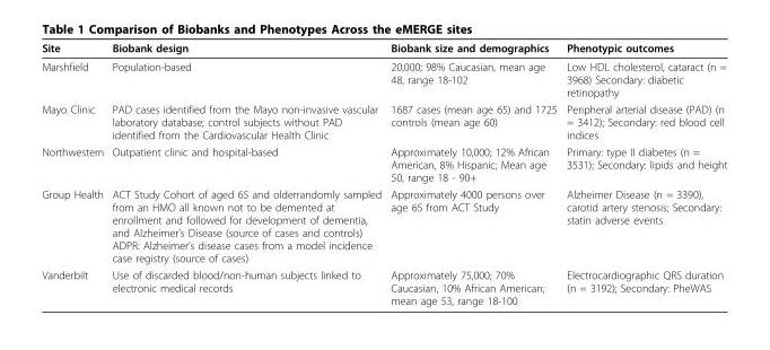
<table><tbody><tr><td>Site</td><td>Biobank design</td><td>Biobank size and demographics</td><td>Phenotypic outcomes</td></tr><tr><td>Marshfield</td><td>Population-based</td><td>20,000; 98% Caucasian, mean age 48, range 18-102</td><td>Low HDL cholesterol, cataract (n = 3968) Secondary: diabetic retinopathy</td></tr><tr><td>Mayo Clinic</td><td>PAD cases identified from the Mayo non-invasive vascular laboratory database; control subjects without PAD identified from the Cardiovascular Health Clinic</td><td>1687 cases (mean age 65) and 1725 controls (mean age 60)</td><td>Peripheral arterial disease (PAD) (n = 3412); Secondary: red blood cell indices</td></tr><tr><td>Northwestern</td><td>Outpatient clinic and hospital-based</td><td>Approximately 10,000; 12% African American, 8% Hispanic; Mean age 50, range 18 - 90+</td><td>Primary: type II diabetes (n = 3531); Secondary: lipids and height</td></tr><tr><td>Group Health</td><td>ACT Study Cohort of aged 65 and olderrandomly sampled from an HMO all known not to be demented at enrollment and followed for development of dementia, and Alzheimer’s Disease (source of cases and controls) ADPR: Alzheimer’s disease cases from a model incidence case registry (source of cases)</td><td>Approximately 4000 persons over age 65 from ACT Study</td><td>Alzheimer Disease (n = 3390), carotid artery stenosis; Secondary: statin adverse events</td></tr><tr><td>Vanderbilt</td><td>Use of discarded blood/non-human subjects linked to electronic medical records</td><td>Approximately 75,000; 70% Caucasian, 10% African American; mean age 53, range 18-100</td><td>Electrocardiographic QRS duration (n = 3192); Secondary: PheWAS</td></tr></tbody></table>